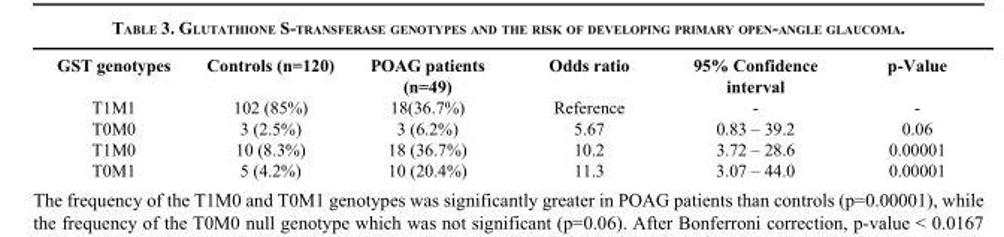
<table><thead><tr><td>GST genotypes</td><td>Controls (n=120)</td><td>POAG patients (n=49)</td><td>Odds ratio</td><td>95% Confidence interval</td><td>p-Value</td></tr></thead><tbody><tr><td>T1M1</td><td>102 (85%)</td><td>18(36.7%)</td><td>Reference</td><td>-</td><td>-</td></tr><tr><td>T0M0</td><td>3 (2.5%)</td><td>3 (6.2%)</td><td>5.67</td><td>0.83 – 39.2</td><td>0.06</td></tr><tr><td>T1M0</td><td>10 (8.3%)</td><td>18 (36.7%)</td><td>10.2</td><td>3.72 – 28.6</td><td>0.00001</td></tr><tr><td>T0M1</td><td>5 (4.2%)</td><td>10 (20.4%)</td><td>11.3</td><td>3.07 – 44.0</td><td>0.00001</td></tr></tbody></table>